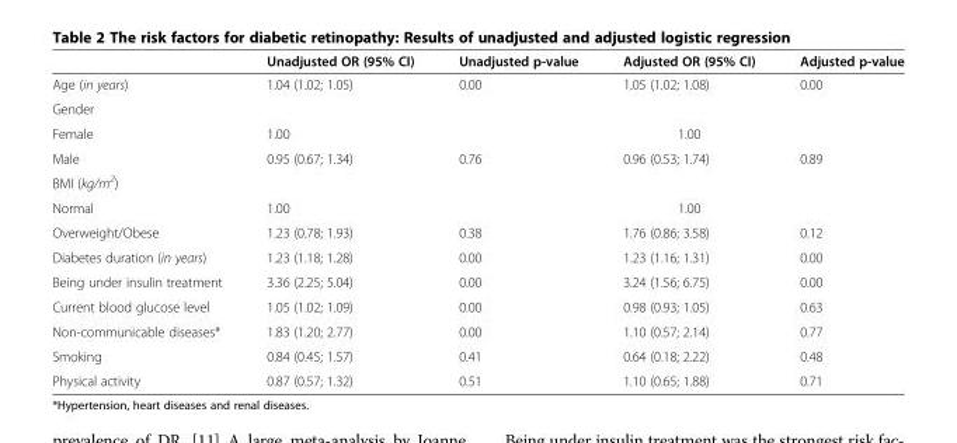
<table><thead><tr><td></td><td>Unadjusted OR (95% CI)</td><td>Unadjusted p-value</td><td>Adjusted OR (95% CI)</td><td>Adjusted p-value</td></tr></thead><tbody><tr><td>Age (in years)</td><td>1.04 (1.02; 1.05)</td><td>0.00</td><td>1.05 (1.02; 1.08)</td><td>0.00</td></tr><tr><td colspan="5">Gender</td></tr><tr><td>Female</td><td>1.00</td><td></td><td>1.00</td><td></td></tr><tr><td>Male</td><td>0.95 (0.67; 1.34)</td><td>0.76</td><td>0.96 (0.53; 1.74)</td><td>0.89</td></tr><tr><td colspan="5">BMI (kg/m<sup>2</sup>)</td></tr><tr><td>Normal</td><td>1.00</td><td></td><td>1.00</td><td></td></tr><tr><td>Overweight/Obese</td><td>1.23 (0.78; 1.93)</td><td>0.38</td><td>1.76 (0.86; 3.58)</td><td>0.12</td></tr><tr><td>Diabetes duration (in years)</td><td>1.23 (1.18; 1.28)</td><td>0.00</td><td>1.23 (1.16; 1.31)</td><td>0.00</td></tr><tr><td>Being under insulin treatment</td><td>3.36 (2.25; 5.04)</td><td>0.00</td><td>3.24 (1.56; 6.75)</td><td>0.00</td></tr><tr><td>Current blood glucose level</td><td>1.05 (1.02; 1.09)</td><td>0.00</td><td>0.98 (0.93; 1.05)</td><td>0.63</td></tr><tr><td>Non-communicable diseases*</td><td>1.83 (1.20; 2.77)</td><td>0.00</td><td>1.10 (0.57; 2.14)</td><td>0.77</td></tr><tr><td>Smoking</td><td>0.84 (0.45; 1.57)</td><td>0.41</td><td>0.64 (0.18; 2.22)</td><td>0.48</td></tr><tr><td>Physical activity</td><td>0.87 (0.57; 1.32)</td><td>0.51</td><td>1.10 (0.65; 1.88)</td><td>0.71</td></tr></tbody></table>